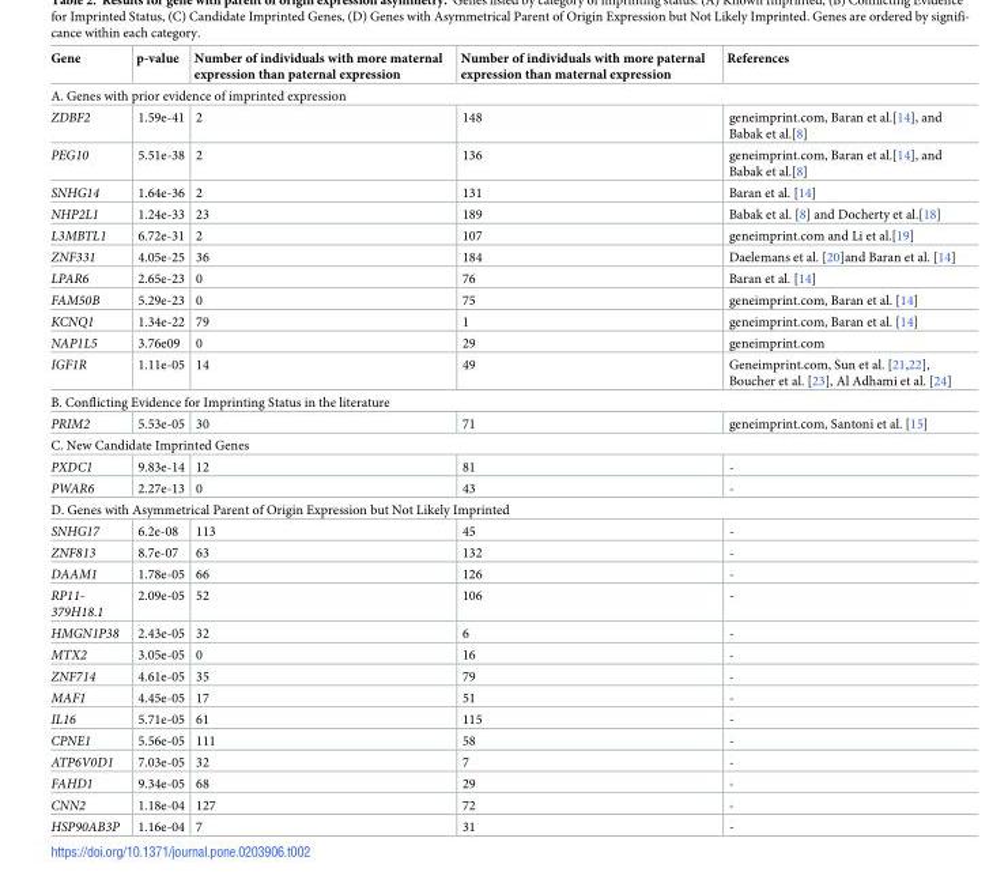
<table><thead><tr><td>Gene</td><td>p-value</td><td>Number of individuals with more maternal expression than paternal expression</td><td>Number of individuals with more paternal expression than maternal expression</td><td>References</td></tr></thead><tbody><tr><td colspan="5">A. Genes with prior evidence of imprinted expression</td></tr><tr><td>ZDBF2</td><td>1.59e-41</td><td>2</td><td>148</td><td>geneimprint.com, Baran et al.[14], and Babak et al.[8]</td></tr><tr><td>PEG10</td><td>5.51e-38</td><td>2</td><td>136</td><td>geneimprint.com, Baran et al.[14], and Babak et al.[8]</td></tr><tr><td>SNHG14</td><td>1.64e-36</td><td>2</td><td>131</td><td>Baran et al. [14]</td></tr><tr><td>NHP2L1</td><td>1.24e-33</td><td>23</td><td>189</td><td>Babak et al. [8] and Docherty et al.[18]</td></tr><tr><td>L3MBTL1</td><td>6.72e-31</td><td>2</td><td>107</td><td>geneimprint.com and Li et al.[19]</td></tr><tr><td>ZNF331</td><td>4.05e-25</td><td>36</td><td>184</td><td>Daelemans et al. [20]and Baran et al. [14]</td></tr><tr><td>LPAR6</td><td>2.65e-23</td><td>0</td><td>76</td><td>Baran et al. [14]</td></tr><tr><td>FAM50B</td><td>5.29e-23</td><td>0</td><td>75</td><td>geneimprint.com, Baran et al. [14]</td></tr><tr><td>KCNQ1</td><td>1.34e-22</td><td>79</td><td>1</td><td>geneimprint.com, Baran et al. [14]</td></tr><tr><td>NAP1L5</td><td>3.76e09</td><td>0</td><td>29</td><td>geneimprint.com</td></tr><tr><td>IGF1R</td><td>1.11e-05</td><td>14</td><td>49</td><td>Geneimprint.com, Sun et al. [21,22], Boucher et al. [23], Al Adhami et al. [24]</td></tr><tr><td colspan="5">B. Conflicting Evidence for Imprinting Status in the literature</td></tr><tr><td>PRIM2</td><td>5.53e-05</td><td>30</td><td>71</td><td>geneimprint.com, Santoni et al. [15]</td></tr><tr><td colspan="5">C. New Candidate Imprinted Genes</td></tr><tr><td>PXDC1</td><td>9.83e-14</td><td>12</td><td>81</td><td>-</td></tr><tr><td>PWAR6</td><td>2.27e-13</td><td>0</td><td>43</td><td>-</td></tr><tr><td colspan="5">D. Genes with Asymmetrical Parent of Origin Expression but Not Likely Imprinted</td></tr><tr><td>SNHG17</td><td>6.2e-08</td><td>113</td><td>45</td><td>-</td></tr><tr><td>ZNF813</td><td>8.7e-07</td><td>63</td><td>132</td><td>-</td></tr><tr><td>DAAM1</td><td>1.78e-05</td><td>66</td><td>126</td><td>-</td></tr><tr><td>RP11- 379H18.1</td><td>2.09e-05</td><td>52</td><td>106</td><td>-</td></tr><tr><td>HMGN1P38</td><td>2.43e-05</td><td>32</td><td>6</td><td>-</td></tr><tr><td>MTX2</td><td>3.05e-05</td><td>0</td><td>16</td><td>-</td></tr><tr><td>ZNF714</td><td>4.61e-05</td><td>35</td><td>79</td><td>-</td></tr><tr><td>MAF1</td><td>4.45e-05</td><td>17</td><td>51</td><td>-</td></tr><tr><td>IL16</td><td>5.71e-05</td><td>61</td><td>115</td><td>-</td></tr><tr><td>CPNE1</td><td>5.56e-05</td><td>111</td><td>58</td><td>-</td></tr><tr><td>ATP6V0D1</td><td>7.03e-05</td><td>32</td><td>7</td><td>-</td></tr><tr><td>FAHD1</td><td>9.34e-05</td><td>68</td><td>29</td><td>-</td></tr><tr><td>CNN2</td><td>1.18e-04</td><td>127</td><td>72</td><td>-</td></tr><tr><td>HSP90AB3P</td><td>1.16e-04</td><td>7</td><td>31</td><td>-</td></tr></tbody></table>